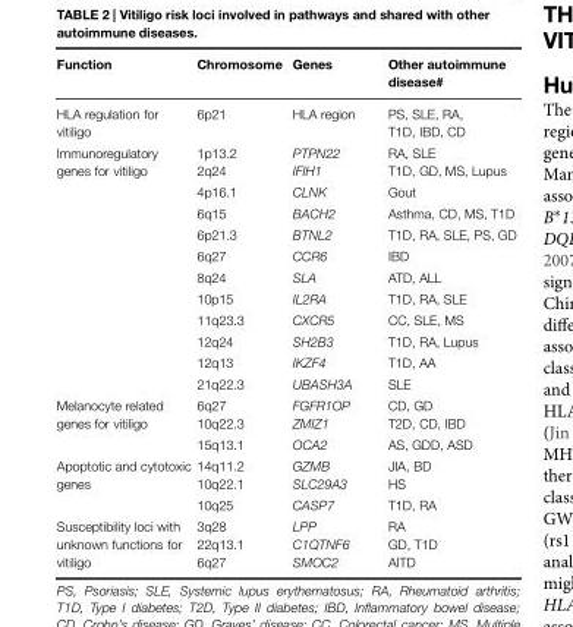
<table><thead><tr><td>Function</td><td>Chromosome</td><td>Genes</td><td>Other autoimmune disease#</td></tr></thead><tbody><tr><td>HLA regulation for vitiligo</td><td>6p21</td><td>HLA region</td><td>PS, SLE, RA, T1D, IBD, CD</td></tr><tr><td rowspan="11">Immunoregulatory genes for vitiligo</td><td>1p13.2 2q24</td><td>PTPN22 IFIH1</td><td>RA, SLE T1D, GD, MS, Lupus</td></tr><tr><td>4p16.1</td><td>CLNK</td><td>Gout</td></tr><tr><td>6q15</td><td>BACH2</td><td>Asthma, CD, MS, T1D</td></tr><tr><td>6p21.3</td><td>BTNL2</td><td>T1D, RA, SLE, PS, GD</td></tr><tr><td>6q27</td><td>CCR6</td><td>IBD</td></tr><tr><td>8q24</td><td>SLA</td><td>ATD, ALL</td></tr><tr><td>10p15</td><td>IL2RA</td><td>T1D, RA, SLE</td></tr><tr><td>11q23.3</td><td>CXCR5</td><td>CC, SLE, MS</td></tr><tr><td>12q24</td><td>SH2B3</td><td>T1D, RA, Lupus</td></tr><tr><td>12q13</td><td>IKZF4</td><td>T1D, AA</td></tr><tr><td>21q22.3</td><td>UBASH3A</td><td>SLE</td></tr><tr><td rowspan="2">Melanocyte related genes for vitiligo</td><td>6q27 10q22.3</td><td>FGFR1OP ZMIZ1</td><td>CD, GD T2D, CD, IBD</td></tr><tr><td>15q13.1</td><td>OCA2</td><td>AS, GDD, ASD</td></tr><tr><td rowspan="2">Apoptotic and cytotoxic genes</td><td>14q11.2 10q22.1</td><td>GZMB SLC29A3</td><td>JIA, BD HS</td></tr><tr><td>10q25</td><td>CASP7</td><td>T1D, RA</td></tr><tr><td>Susceptibility loci with unknown functions for vitiligo</td><td>3q28 22q13.1 6q27</td><td>LPP C1QTNF6 SMOC2</td><td>RA GD, T1D AITD</td></tr></tbody></table>